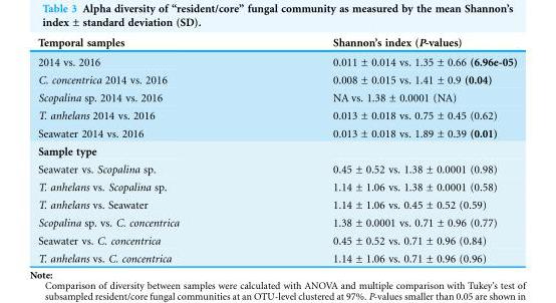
<table><thead><tr><td>Temporal samples</td><td>Shannon’s index (P-values)</td></tr></thead><tbody><tr><td>2014 vs. 2016</td><td>0.011 ± 0.014 vs. 1.35 ± 0.66 (6.96e-05)</td></tr><tr><td>C. concentrica 2014 vs. 2016</td><td>0.008 ± 0.015 vs. 1.41 ± 0.9 (0.04)</td></tr><tr><td>Scopalina sp. 2014 vs. 2016</td><td>NA vs. 1.38 ± 0.0001 (NA)</td></tr><tr><td>T. anhelans 2014 vs. 2016</td><td>0.013 ± 0.018 vs. 0.75 ± 0.45 (0.62)</td></tr><tr><td>Seawater 2014 vs. 2016</td><td>0.013 ± 0.018 vs. 1.89 ± 0.39 (0.01)</td></tr><tr><td colspan="2">Sample type</td></tr><tr><td>Seawater vs. Scopalina sp.</td><td>0.45 ± 0.52 vs. 1.38 ± 0.0001 (0.98)</td></tr><tr><td>T. anhelans vs. Scopalina sp.</td><td>1.14 ± 1.06 vs. 1.38 ± 0.0001 (0.58)</td></tr><tr><td>T. anhelans vs. Seawater</td><td>1.14 ± 1.06 vs. 0.45 ± 0.52 (0.59)</td></tr><tr><td>Scopalina sp. vs. C. concentrica</td><td>1.38 ± 0.0001 vs. 0.71 ± 0.96 (0.77)</td></tr><tr><td>Seawater vs. C. concentrica</td><td>0.45 ± 0.52 vs. 0.71 ± 0.96 (0.84)</td></tr><tr><td>T. anhelans vs. C. concentrica</td><td>1.14 ± 1.06 vs. 0.71 ± 0.96 (0.96)</td></tr></tbody></table>